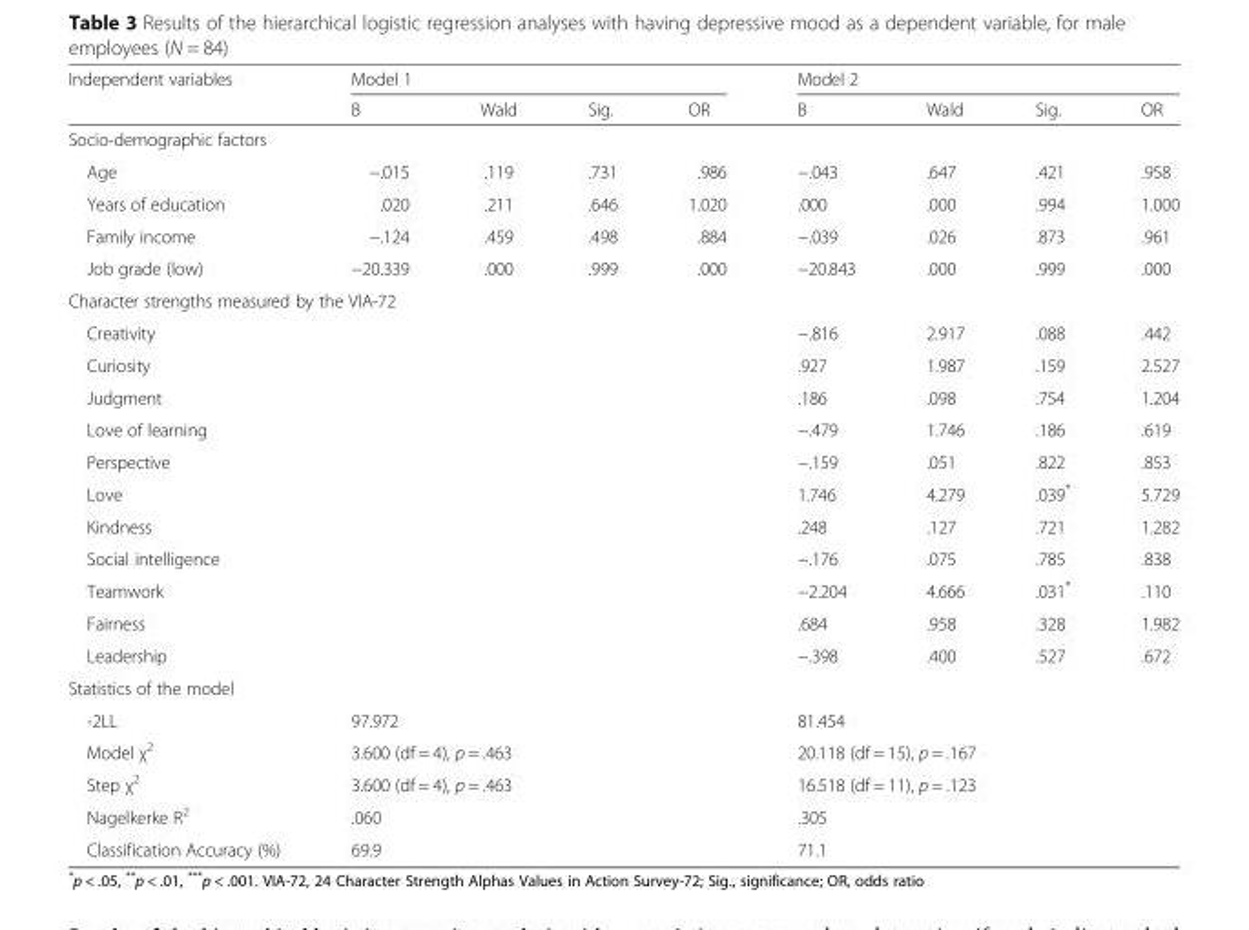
<table><thead><tr><td rowspan="2">Independent variables</td><td colspan="4">Model 1</td><td colspan="4">Model 2</td></tr><tr><td>B</td><td>Wald</td><td>Sig.</td><td>OR</td><td>B</td><td>Wald</td><td>Sig.</td><td>OR</td></tr></thead><tbody><tr><td colspan="9">Socio-demographic factors</td></tr><tr><td>Age</td><td>−.015</td><td>.119</td><td>.731</td><td>.986</td><td>−.043</td><td>.647</td><td>.421</td><td>.958</td></tr><tr><td>Years of education</td><td>.020</td><td>.211</td><td>.646</td><td>1.020</td><td>.000</td><td>.000</td><td>.994</td><td>1.000</td></tr><tr><td>Family income</td><td>−.124</td><td>.459</td><td>.498</td><td>.884</td><td>−.039</td><td>.026</td><td>.873</td><td>.961</td></tr><tr><td>Job grade (low)</td><td>−20.339</td><td>.000</td><td>.999</td><td>.000</td><td>−20.843</td><td>.000</td><td>.999</td><td>.000</td></tr><tr><td colspan="9">Character strengths measured by the VIA-72</td></tr><tr><td>Creativity</td><td></td><td></td><td></td><td></td><td>−.816</td><td>2.917</td><td>.088</td><td>.442</td></tr><tr><td>Curiosity</td><td></td><td></td><td></td><td></td><td>.927</td><td>1.987</td><td>.159</td><td>2.527</td></tr><tr><td>Judgment</td><td></td><td></td><td></td><td></td><td>.186</td><td>.098</td><td>.754</td><td>1.204</td></tr><tr><td>Love of learning</td><td></td><td></td><td></td><td></td><td>−.479</td><td>1.746</td><td>.186</td><td>.619</td></tr><tr><td>Perspective</td><td></td><td></td><td></td><td></td><td>−.159</td><td>.051</td><td>.822</td><td>.853</td></tr><tr><td>Love</td><td></td><td></td><td></td><td></td><td>1.746</td><td>4.279</td><td>.039*</td><td>5.729</td></tr><tr><td>Kindness</td><td></td><td></td><td></td><td></td><td>.248</td><td>.127</td><td>.721</td><td>1.282</td></tr><tr><td>Social intelligence</td><td></td><td></td><td></td><td></td><td>−.176</td><td>.075</td><td>.785</td><td>.838</td></tr><tr><td>Teamwork</td><td></td><td></td><td></td><td></td><td>−2.204</td><td>4.666</td><td>.031*</td><td>.110</td></tr><tr><td>Fairness</td><td></td><td></td><td></td><td></td><td>.684</td><td>.958</td><td>.328</td><td>1.982</td></tr><tr><td>Leadership</td><td></td><td></td><td></td><td></td><td>−.398</td><td>.400</td><td>.527</td><td>.672</td></tr><tr><td colspan="9">Statistics of the model</td></tr><tr><td>-2LL</td><td colspan="4">97.972</td><td colspan="4">81.454</td></tr><tr><td>Model χ<sup>2</sup></td><td colspan="4">3.600 (df = 4), p = .463</td><td colspan="4">20.118 (df = 15), p = .167</td></tr><tr><td>Step χ<sup>2</sup></td><td colspan="4">3.600 (df = 4), p = .463</td><td colspan="4">16.518 (df = 11), p = .123</td></tr><tr><td>Nagelkerke R<sup>2</sup></td><td colspan="4">.060</td><td colspan="4">.305</td></tr><tr><td>Classification Accuracy (%)</td><td colspan="4">69.9</td><td colspan="4">71.1</td></tr></tbody></table>